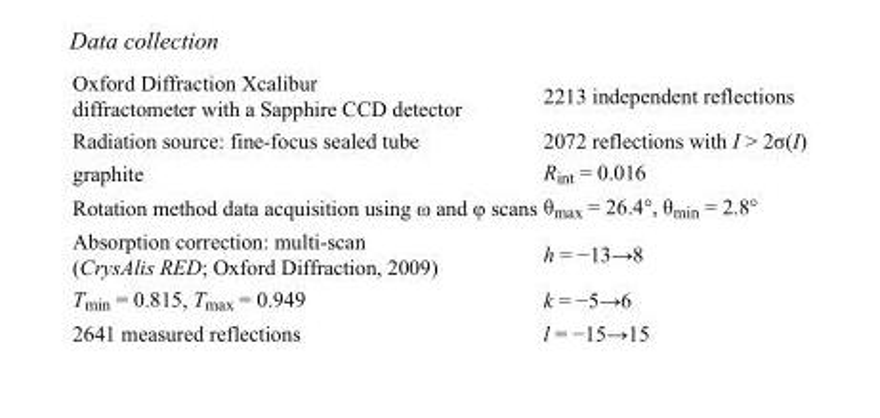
<table><tbody><tr><td>Oxford Diffraction Xcalibur diffractometer with a Sapphire CCD detector</td><td>2213 independent reflections</td></tr><tr><td>Radiation source: fine-focus sealed tube</td><td>2072 reflections with I &gt; 2σ(I)</td></tr><tr><td>graphite</td><td>R<sub>int</sub> = 0.016</td></tr><tr><td>Rotation method data acquisition using ω and φ scans</td><td>θ<sub>max</sub> = 26.4°, θ<sub>min</sub> = 2.8°</td></tr><tr><td>Absorption correction: multi-scan (CrysAlis RED; Oxford Diffraction, 2009)</td><td>h = −13→8</td></tr><tr><td>T<sub>min</sub> = 0.815, T<sub>max</sub> = 0.949</td><td>k = −5→6</td></tr><tr><td>2641 measured reflections</td><td>l = −15→15</td></tr></tbody></table>